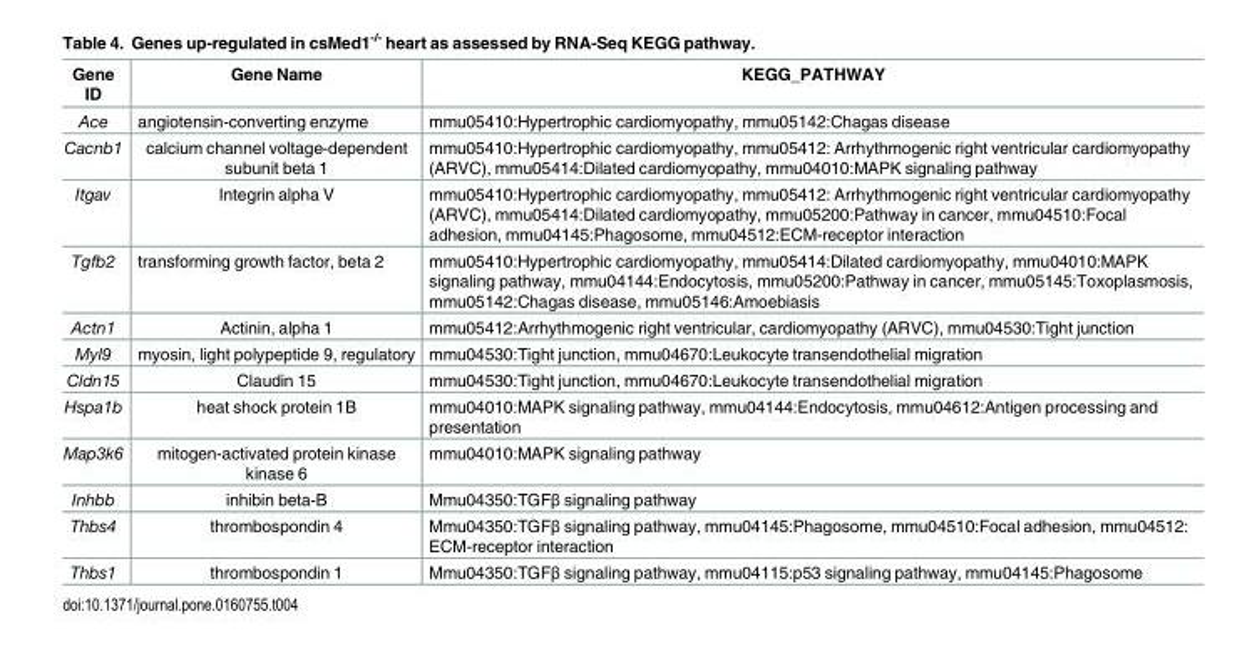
<table><thead><tr><td>Gene ID</td><td>Gene Name</td><td>KEGG_PATHWAY</td></tr></thead><tbody><tr><td>Ace</td><td>angiotensin-converting enzyme</td><td>mmu05410:Hypertrophic cardiomyopathy, mmu05142:Chagas disease</td></tr><tr><td>Cacnb1</td><td>calcium channel voltage-dependent subunit beta 1</td><td>mmu05410:Hypertrophic cardiomyopathy, mmu05412: Arrhythmogenic right ventricular cardiomyopathy (ARVC), mmu05414:Dilated cardiomyopathy, mmu04010:MAPK signaling pathway</td></tr><tr><td>Itgav</td><td>Integrin alpha V</td><td>mmu05410:Hypertrophic cardiomyopathy, mmu05412: Arrhythmogenic right ventricular cardiomyopathy (ARVC), mmu05414:Dilated cardiomyopathy, mmu05200:Pathway in cancer, mmu04510:Focal adhesion, mmu04145:Phagosome, mmu04512:ECM-receptor interaction</td></tr><tr><td>Tgfb2</td><td>transforming growth factor, beta 2</td><td>mmu05410:Hypertrophic cardiomyopathy, mmu05414:Dilated cardiomyopathy, mmu04010:MAPK signaling pathway, mmu04144:Endocytosis, mmu05200:Pathway in cancer, mmu05145:Toxoplasmosis, mmu05142:Chagas disease, mmu05146:Amoebiasis</td></tr><tr><td>Actn1</td><td>Actinin, alpha 1</td><td>mmu05412:Arrhythmogenic right ventricular, cardiomyopathy (ARVC), mmu04530:Tight junction</td></tr><tr><td>Myl9</td><td>myosin, light polypeptide 9, regulatory</td><td>mmu04530:Tight junction, mmu04670:Leukocyte transendothelial migration</td></tr><tr><td>Cldn15</td><td>Claudin 15</td><td>mmu04530:Tight junction, mmu04670:Leukocyte transendothelial migration</td></tr><tr><td>Hspa1b</td><td>heat shock protein 1B</td><td>mmu04010:MAPK signaling pathway, mmu04144:Endocytosis, mmu04612:Antigen processing and presentation</td></tr><tr><td>Map3k6</td><td>mitogen-activated protein kinase kinase 6</td><td>mmu04010:MAPK signaling pathway</td></tr><tr><td>Inhbb</td><td>inhibin beta-B</td><td>Mmu04350:TGFβ signaling pathway</td></tr><tr><td>Thbs4</td><td>thrombospondin 4</td><td>Mmu04350:TGFβ signaling pathway, mmu04145:Phagosome, mmu04510:Focal adhesion, mmu04512: ECM-receptor interaction</td></tr><tr><td>Thbs1</td><td>thrombospondin 1</td><td>Mmu04350:TGFβ signaling pathway, mmu04115:p53 signaling pathway, mmu04145:Phagosome</td></tr></tbody></table>